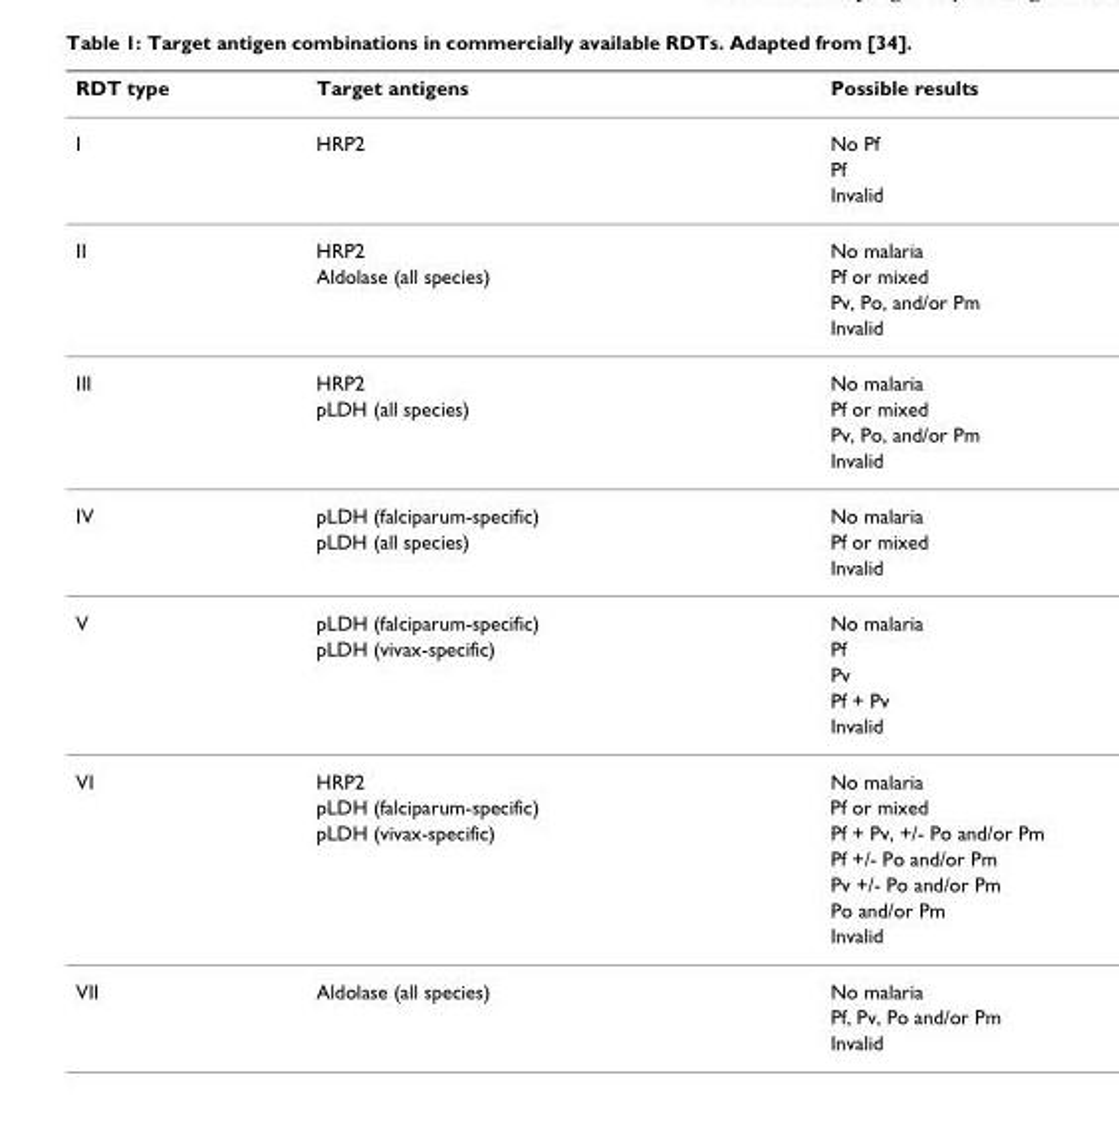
<table><thead><tr><td>RDT type</td><td>Target antigens</td><td>Possible results</td></tr></thead><tbody><tr><td rowspan="3">I</td><td>HRP2</td><td>No Pf</td></tr><tr><td></td><td>Pf</td></tr><tr><td></td><td>Invalid</td></tr><tr><td rowspan="4">II</td><td>HRP2</td><td>No malaria</td></tr><tr><td>Aldolase (all species)</td><td>Pf or mixed</td></tr><tr><td></td><td>Pv, Po, and/or Pm</td></tr><tr><td></td><td>Invalid</td></tr><tr><td rowspan="4">III</td><td>HRP2</td><td>No malaria</td></tr><tr><td>pLDH (all species)</td><td>Pf or mixed</td></tr><tr><td></td><td>Pv, Po, and/or Pm</td></tr><tr><td></td><td>Invalid</td></tr><tr><td rowspan="3">IV</td><td>pLDH (falciparum-specific)</td><td>No malaria</td></tr><tr><td>pLDH (all species)</td><td>Pf or mixed</td></tr><tr><td></td><td>Invalid</td></tr><tr><td rowspan="5">V</td><td>pLDH (falciparum-specific)</td><td>No malaria</td></tr><tr><td>pLDH (vivax-specific)</td><td>Pf</td></tr><tr><td></td><td>Pv</td></tr><tr><td></td><td>Pf + Pv</td></tr><tr><td></td><td>Invalid</td></tr><tr><td rowspan="7">VI</td><td>HRP2</td><td>No malaria</td></tr><tr><td>pLDH (falciparum-specific)</td><td>Pf or mixed</td></tr><tr><td>pLDH (vivax-specific)</td><td>Pf + Pv, +/- Po and/or Pm</td></tr><tr><td></td><td>Pf +/- Po and/or Pm</td></tr><tr><td></td><td>Pv +/- Po and/or Pm</td></tr><tr><td></td><td>Po and/or Pm</td></tr><tr><td></td><td>Invalid</td></tr><tr><td rowspan="3">VII</td><td>Aldolase (all species)</td><td>No malaria</td></tr><tr><td></td><td>Pf, Pv, Po and/or Pm</td></tr><tr><td></td><td>Invalid</td></tr></tbody></table>